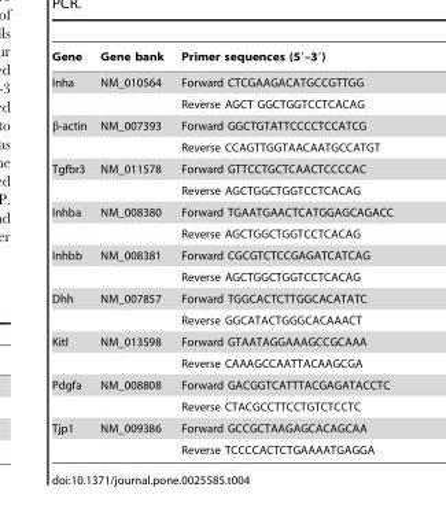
<table><thead><tr><td>Gene</td><td>Gene bank</td><td>Primer sequences (5′–3′)</td></tr></thead><tbody><tr><td rowspan="2">Inha</td><td>NM_010564</td><td>Forward CTCGAAGACATGCCGTTGG</td></tr><tr><td></td><td>Reverse AGCT GGCTGGTCCTCACAG</td></tr><tr><td rowspan="2">β-actin</td><td>NM_007393</td><td>Forward GGCTGTATTCCCCTCCATCG</td></tr><tr><td></td><td>Reverse CCAGTTGGTAACAATGCCATGT</td></tr><tr><td rowspan="2">Tgfbr3</td><td>NM_011578</td><td>Forward GTTCCTGCTCAACTCCCCAC</td></tr><tr><td></td><td>Reverse AGCTGGCTGGTCCTCACAG</td></tr><tr><td rowspan="2">Inhba</td><td>NM_008380</td><td>Forward TGAATGAACTCATGGAGCAGACC</td></tr><tr><td></td><td>Reverse AGCTGGCTGGTCCTCACAG</td></tr><tr><td rowspan="2">Inhbb</td><td>NM_008381</td><td>Forward CGCGTCTCCGAGATCATCAG</td></tr><tr><td></td><td>Reverse AGCTGGCTGGTCCTCACAG</td></tr><tr><td rowspan="2">Dhh</td><td>NM_007857</td><td>Forward TGGCACTCTTGGCACATATC</td></tr><tr><td></td><td>Reverse GGCATACTGGGCACAAACT</td></tr><tr><td rowspan="2">Kitl</td><td>NM_013598</td><td>Forward GTAATAGGAAAGCCGCAAA</td></tr><tr><td></td><td>Reverse CAAAGCCAATTACAAGCGA</td></tr><tr><td rowspan="2">Pdgfa</td><td>NM_008808</td><td>Forward GACGGTCATTTACGAGATACCTC</td></tr><tr><td></td><td>Reverse CTACGCCTTCCTGTCTCCTC</td></tr><tr><td rowspan="2">Tjp1</td><td>NM_009386</td><td>Forward GCCGCTAAGAGCACAGCAA</td></tr><tr><td></td><td>Reverse TCCCCACTCTGAAAATGAGGA</td></tr></tbody></table>